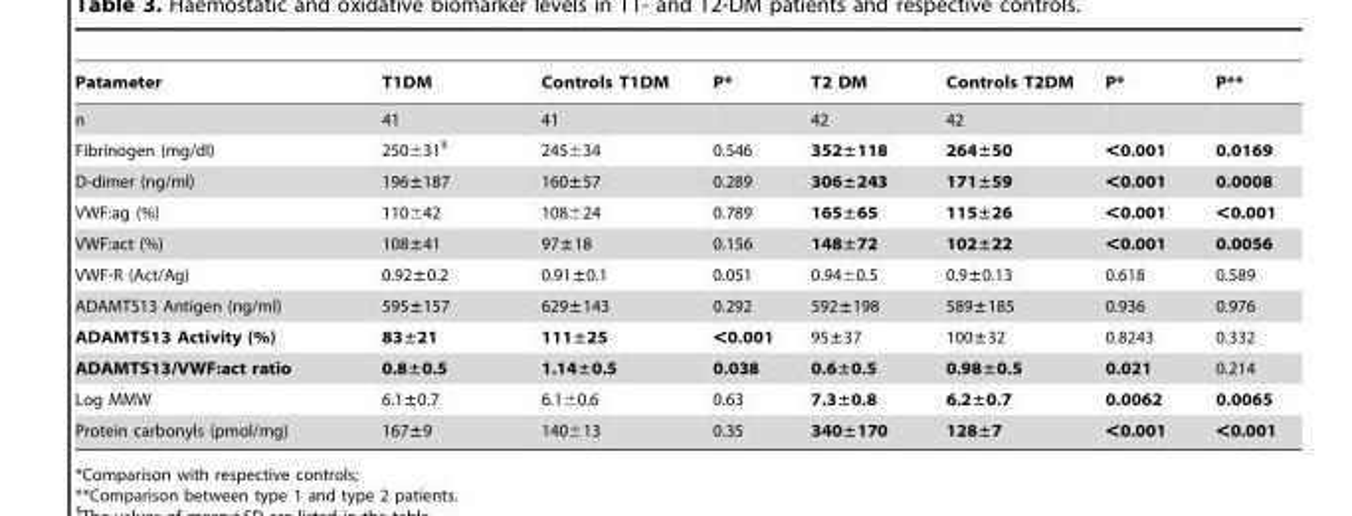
<table><thead><tr><td>Patameter</td><td>T1DM</td><td>Controls T1DM</td><td>P*</td><td>T2 DM</td><td>Controls T2DM</td><td>P*</td><td>P**</td></tr></thead><tbody><tr><td>n</td><td>41</td><td>41</td><td></td><td>42</td><td>42</td><td></td><td></td></tr><tr><td>Fibrinogen (mg/dl)</td><td>250±31§</td><td>245±34</td><td>0.546</td><td>352±118</td><td>264±50</td><td>&lt;0.001</td><td>0.0169</td></tr><tr><td>D-dimer (ng/ml)</td><td>196±187</td><td>160±57</td><td>0.289</td><td>306±243</td><td>171±59</td><td>&lt;0.001</td><td>0.0008</td></tr><tr><td>VWF:ag (%)</td><td>110±42</td><td>108±24</td><td>0.789</td><td>165±65</td><td>115±26</td><td>&lt;0.001</td><td>&lt;0.001</td></tr><tr><td>VWF:act (%)</td><td>108±41</td><td>97±18</td><td>0.156</td><td>148±72</td><td>102±22</td><td>&lt;0.001</td><td>0.0056</td></tr><tr><td>VWF-R (Act/Ag)</td><td>0.92±0.2</td><td>0.91±0.1</td><td>0.051</td><td>0.94±0.5</td><td>0.9±0.13</td><td>0.618</td><td>0.589</td></tr><tr><td>ADAMTS13 Antigen (ng/ml)</td><td>595±157</td><td>629±143</td><td>0.292</td><td>592±198</td><td>589±185</td><td>0.936</td><td>0.976</td></tr><tr><td>ADAMTS13 Activity (%)</td><td>83±21</td><td>111±25</td><td>&lt;0.001</td><td>95±37</td><td>100±32</td><td>0.8243</td><td>0.332</td></tr><tr><td>ADAMTS13/VWF:act ratio</td><td>0.8±0.5</td><td>1.14±0.5</td><td>0.038</td><td>0.6±0.5</td><td>0.98±0.5</td><td>0.021</td><td>0.214</td></tr><tr><td>Log MMW</td><td>6.1±0.7</td><td>6.1±0.6</td><td>0.63</td><td>7.3±0.8</td><td>6.2±0.7</td><td>0.0062</td><td>0.0065</td></tr><tr><td>Protein carbonyls (pmol/mg)</td><td>167±9</td><td>140±13</td><td>0.35</td><td>340±170</td><td>128±7</td><td>&lt;0.001</td><td>&lt;0.001</td></tr></tbody></table>